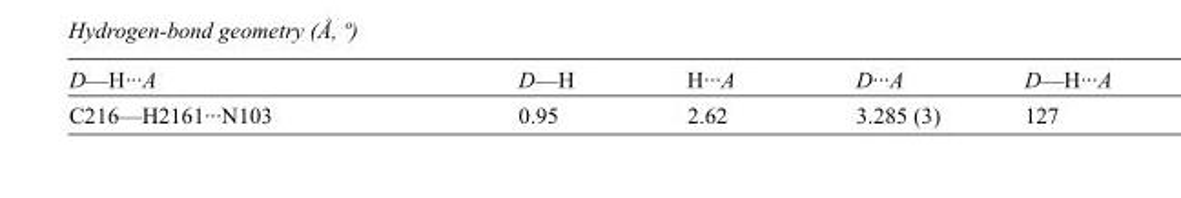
<table><tbody><tr><td>D—H···A</td><td>D—H</td><td>H···A</td><td>D···A</td><td>D—H···A</td></tr><tr><td>C216—H2161···N103</td><td>0.95</td><td>2.62</td><td>3.285 (3)</td><td>127</td></tr></tbody></table>